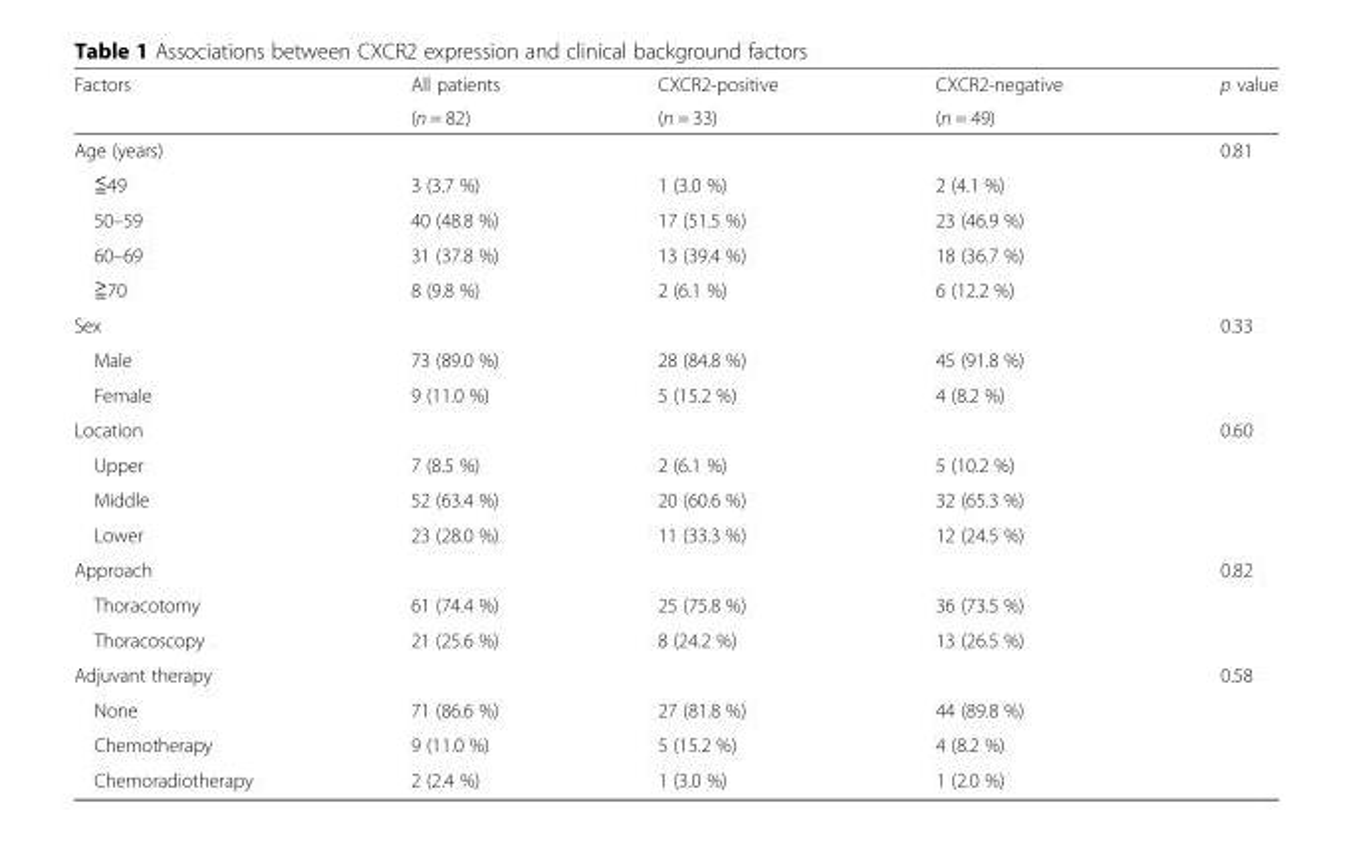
<table><thead><tr><td rowspan="2">Factors</td><td rowspan="2">All patients (n = 82)</td><td rowspan="2">CXCR2-positive (n = 33)</td><td rowspan="2">CXCR2-negative (n = 49)</td><td rowspan="2">p value</td></tr><tr></tr></thead><tbody><tr><td>Age (years)</td><td></td><td></td><td></td><td>0.81</td></tr><tr><td>≦49</td><td>3 (3.7 %)</td><td>1 (3.0 %)</td><td>2 (4.1 %)</td><td></td></tr><tr><td>50–59</td><td>40 (48.8 %)</td><td>17 (51.5 %)</td><td>23 (46.9 %)</td><td></td></tr><tr><td>60–69</td><td>31 (37.8 %)</td><td>13 (39.4 %)</td><td>18 (36.7 %)</td><td></td></tr><tr><td>≧70</td><td>8 (9.8 %)</td><td>2 (6.1 %)</td><td>6 (12.2 %)</td><td></td></tr><tr><td>Sex</td><td></td><td></td><td></td><td>0.33</td></tr><tr><td>Male</td><td>73 (89.0 %)</td><td>28 (84.8 %)</td><td>45 (91.8 %)</td><td></td></tr><tr><td>Female</td><td>9 (11.0 %)</td><td>5 (15.2 %)</td><td>4 (8.2 %)</td><td></td></tr><tr><td>Location</td><td></td><td></td><td></td><td>0.60</td></tr><tr><td>Upper</td><td>7 (8.5 %)</td><td>2 (6.1 %)</td><td>5 (10.2 %)</td><td></td></tr><tr><td>Middle</td><td>52 (63.4 %)</td><td>20 (60.6 %)</td><td>32 (65.3 %)</td><td></td></tr><tr><td>Lower</td><td>23 (28.0 %)</td><td>11 (33.3 %)</td><td>12 (24.5 %)</td><td></td></tr><tr><td>Approach</td><td></td><td></td><td></td><td>0.82</td></tr><tr><td>Thoracotomy</td><td>61 (74.4 %)</td><td>25 (75.8 %)</td><td>36 (73.5 %)</td><td></td></tr><tr><td>Thoracoscopy</td><td>21 (25.6 %)</td><td>8 (24.2 %)</td><td>13 (26.5 %)</td><td></td></tr><tr><td>Adjuvant therapy</td><td></td><td></td><td></td><td>0.58</td></tr><tr><td>None</td><td>71 (86.6 %)</td><td>27 (81.8 %)</td><td>44 (89.8 %)</td><td></td></tr><tr><td>Chemotherapy</td><td>9 (11.0 %)</td><td>5 (15.2 %)</td><td>4 (8.2 %)</td><td></td></tr><tr><td>Chemoradiotherapy</td><td>2 (2.4 %)</td><td>1 (3.0 %)</td><td>1 (2.0 %)</td><td></td></tr></tbody></table>